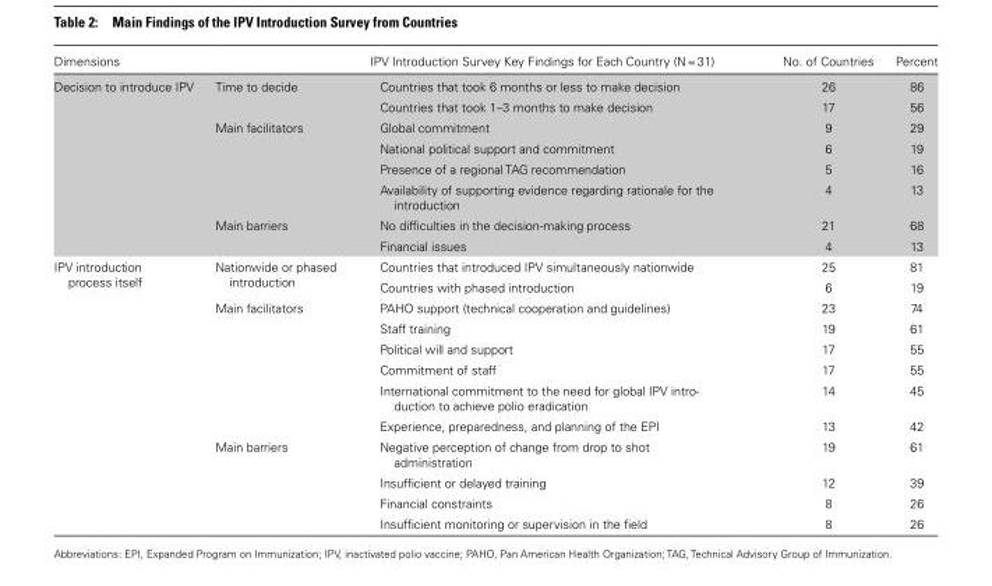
<table><thead><tr><td>Dimensions</td><td></td><td>IPV Introduction Survey Key Findings for Each Country (N = 31)</td><td>No. of Countries</td><td>Percent</td></tr></thead><tbody><tr><td rowspan="8">Decision to introduce IPV</td><td rowspan="2">Time to decide</td><td>Countries that took 6 months or less to make decision</td><td>26</td><td>86</td></tr><tr><td>Countries that took 1–3 months to make decision</td><td>17</td><td>56</td></tr><tr><td rowspan="4">Main facilitators</td><td>Global commitment</td><td>9</td><td>29</td></tr><tr><td>National political support and commitment</td><td>6</td><td>19</td></tr><tr><td>Presence of a regional TAG recommendation</td><td>5</td><td>16</td></tr><tr><td>Availability of supporting evidence regarding rationale for the introduction</td><td>4</td><td>13</td></tr><tr><td rowspan="2">Main barriers</td><td>No difficulties in the decision-making process</td><td>21</td><td>68</td></tr><tr><td>Financial issues</td><td>4</td><td>13</td></tr><tr><td rowspan="12">IPV introduction process itself</td><td rowspan="2">Nationwide or phased introduction</td><td>Countries that introduced IPV simultaneously nationwide</td><td>25</td><td>81</td></tr><tr><td>Countries with phased introduction</td><td>6</td><td>19</td></tr><tr><td rowspan="6">Main facilitators</td><td>PAHO support (technical cooperation and guidelines)</td><td>23</td><td>74</td></tr><tr><td>Staff training</td><td>19</td><td>61</td></tr><tr><td>Political will and support</td><td>17</td><td>55</td></tr><tr><td>Commitment of staff</td><td>17</td><td>55</td></tr><tr><td>International commitment to the need for global IPV intro- duction to achieve polio eradication</td><td>14</td><td>45</td></tr><tr><td>Experience, preparedness, and planning of the EPI</td><td>13</td><td>42</td></tr><tr><td rowspan="4">Main barriers</td><td>Negative perception of change from drop to shot administration</td><td>19</td><td>61</td></tr><tr><td>Insufficient or delayed training</td><td>12</td><td>39</td></tr><tr><td>Financial constraints</td><td>8</td><td>26</td></tr><tr><td>Insufficient monitoring or supervision in the field</td><td>8</td><td>26</td></tr></tbody></table>